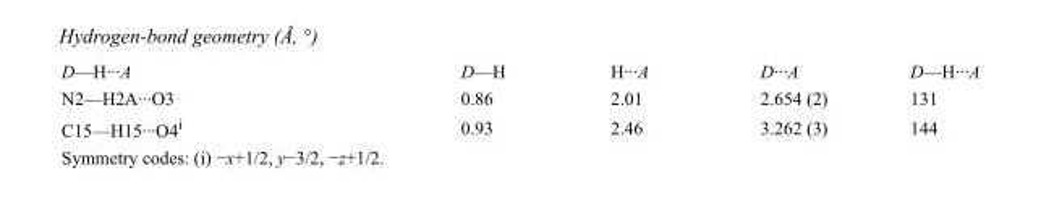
<table><tbody><tr><td>D—H···A</td><td>D—H</td><td>H···A</td><td>D···A</td><td>D—H···A</td></tr><tr><td>N2—H2A···O3</td><td>0.86</td><td>2.01</td><td>2.654 (2)</td><td>131</td></tr><tr><td>C15—H15···O4<sup>i</sup></td><td>0.93</td><td>2.46</td><td>3.262 (3)</td><td>144</td></tr></tbody></table>